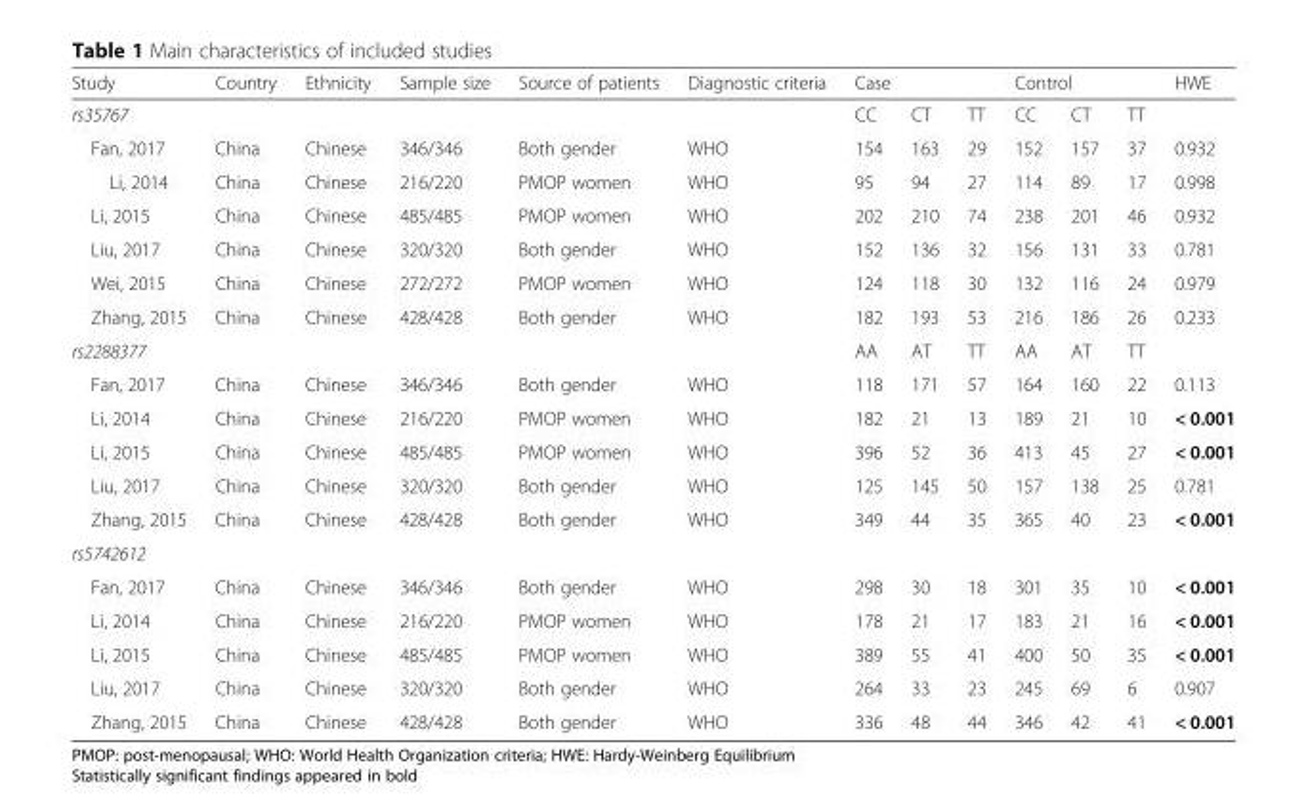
<table><thead><tr><td>Study</td><td>Country</td><td>Ethnicity</td><td>Sample size</td><td>Source of patients</td><td>Diagnostic criteria</td><td colspan="3">Case</td><td colspan="3">Control</td><td rowspan="2">HWE</td></tr><tr><td colspan="6">rs35767</td><td>CC</td><td>CT</td><td>TT</td><td>CC</td><td>CT</td><td>TT</td></tr></thead><tbody><tr><td>Fan, 2017</td><td>China</td><td>Chinese</td><td>346/346</td><td>Both gender</td><td>WHO</td><td>154</td><td>163</td><td>29</td><td>152</td><td>157</td><td>37</td><td>0.932</td></tr><tr><td>Li, 2014</td><td>China</td><td>Chinese</td><td>216/220</td><td>PMOP women</td><td>WHO</td><td>95</td><td>94</td><td>27</td><td>114</td><td>89</td><td>17</td><td>0.998</td></tr><tr><td>Li, 2015</td><td>China</td><td>Chinese</td><td>485/485</td><td>PMOP women</td><td>WHO</td><td>202</td><td>210</td><td>74</td><td>238</td><td>201</td><td>46</td><td>0.932</td></tr><tr><td>Liu, 2017</td><td>China</td><td>Chinese</td><td>320/320</td><td>Both gender</td><td>WHO</td><td>152</td><td>136</td><td>32</td><td>156</td><td>131</td><td>33</td><td>0.781</td></tr><tr><td>Wei, 2015</td><td>China</td><td>Chinese</td><td>272/272</td><td>PMOP women</td><td>WHO</td><td>124</td><td>118</td><td>30</td><td>132</td><td>116</td><td>24</td><td>0.979</td></tr><tr><td>Zhang, 2015</td><td>China</td><td>Chinese</td><td>428/428</td><td>Both gender</td><td>WHO</td><td>182</td><td>193</td><td>53</td><td>216</td><td>186</td><td>26</td><td>0.233</td></tr><tr><td colspan="6">rs2288377</td><td>AA</td><td>AT</td><td>TT</td><td>AA</td><td>AT</td><td>TT</td><td></td></tr><tr><td>Fan, 2017</td><td>China</td><td>Chinese</td><td>346/346</td><td>Both gender</td><td>WHO</td><td>118</td><td>171</td><td>57</td><td>164</td><td>160</td><td>22</td><td>0.113</td></tr><tr><td>Li, 2014</td><td>China</td><td>Chinese</td><td>216/220</td><td>PMOP women</td><td>WHO</td><td>182</td><td>21</td><td>13</td><td>189</td><td>21</td><td>10</td><td>&lt; 0.001</td></tr><tr><td>Li, 2015</td><td>China</td><td>Chinese</td><td>485/485</td><td>PMOP women</td><td>WHO</td><td>396</td><td>52</td><td>36</td><td>413</td><td>45</td><td>27</td><td>&lt; 0.001</td></tr><tr><td>Liu, 2017</td><td>China</td><td>Chinese</td><td>320/320</td><td>Both gender</td><td>WHO</td><td>125</td><td>145</td><td>50</td><td>157</td><td>138</td><td>25</td><td>0.781</td></tr><tr><td>Zhang, 2015</td><td>China</td><td>Chinese</td><td>428/428</td><td>Both gender</td><td>WHO</td><td>349</td><td>44</td><td>35</td><td>365</td><td>40</td><td>23</td><td>&lt; 0.001</td></tr><tr><td colspan="13">rs5742612</td></tr><tr><td>Fan, 2017</td><td>China</td><td>Chinese</td><td>346/346</td><td>Both gender</td><td>WHO</td><td>298</td><td>30</td><td>18</td><td>301</td><td>35</td><td>10</td><td>&lt; 0.001</td></tr><tr><td>Li, 2014</td><td>China</td><td>Chinese</td><td>216/220</td><td>PMOP women</td><td>WHO</td><td>178</td><td>21</td><td>17</td><td>183</td><td>21</td><td>16</td><td>&lt; 0.001</td></tr><tr><td>Li, 2015</td><td>China</td><td>Chinese</td><td>485/485</td><td>PMOP women</td><td>WHO</td><td>389</td><td>55</td><td>41</td><td>400</td><td>50</td><td>35</td><td>&lt; 0.001</td></tr><tr><td>Liu, 2017</td><td>China</td><td>Chinese</td><td>320/320</td><td>Both gender</td><td>WHO</td><td>264</td><td>33</td><td>23</td><td>245</td><td>69</td><td>6</td><td>0.907</td></tr><tr><td>Zhang, 2015</td><td>China</td><td>Chinese</td><td>428/428</td><td>Both gender</td><td>WHO</td><td>336</td><td>48</td><td>44</td><td>346</td><td>42</td><td>41</td><td>&lt; 0.001</td></tr></tbody></table>